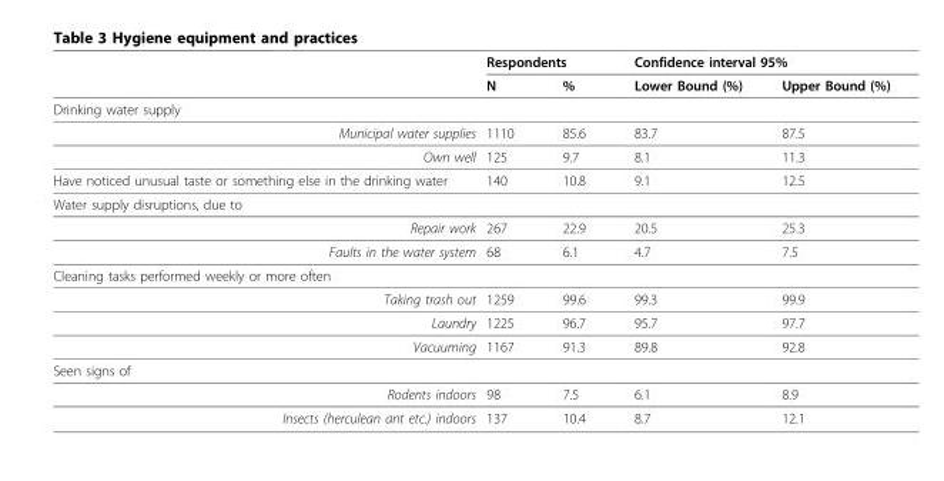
<table><thead><tr><td rowspan="2"></td><td colspan="2">Respondents</td><td colspan="2">Confidence interval 95%</td></tr><tr><td>N</td><td>%</td><td>Lower Bound (%)</td><td>Upper Bound (%)</td></tr></thead><tbody><tr><td colspan="5">Drinking water supply</td></tr><tr><td>Municipal water supplies</td><td>1110</td><td>85.6</td><td>83.7</td><td>87.5</td></tr><tr><td>Own well</td><td>125</td><td>9.7</td><td>8.1</td><td>11.3</td></tr><tr><td>Have noticed unusual taste or something else in the drinking water</td><td>140</td><td>10.8</td><td>9.1</td><td>12.5</td></tr><tr><td colspan="5">Water supply disruptions, due to</td></tr><tr><td>Repair work</td><td>267</td><td>22.9</td><td>20.5</td><td>25.3</td></tr><tr><td>Faults in the water system</td><td>68</td><td>6.1</td><td>4.7</td><td>7.5</td></tr><tr><td colspan="5">Cleaning tasks performed weekly or more often</td></tr><tr><td>Taking trash out</td><td>1259</td><td>99.6</td><td>99.3</td><td>99.9</td></tr><tr><td>Laundry</td><td>1225</td><td>96.7</td><td>95.7</td><td>97.7</td></tr><tr><td>Vacuuming</td><td>1167</td><td>91.3</td><td>89.8</td><td>92.8</td></tr><tr><td colspan="5">Seen signs of</td></tr><tr><td>Rodents indoors</td><td>98</td><td>7.5</td><td>6.1</td><td>8.9</td></tr><tr><td>Insects (herculean ant etc.) indoors</td><td>137</td><td>10.4</td><td>8.7</td><td>12.1</td></tr></tbody></table>